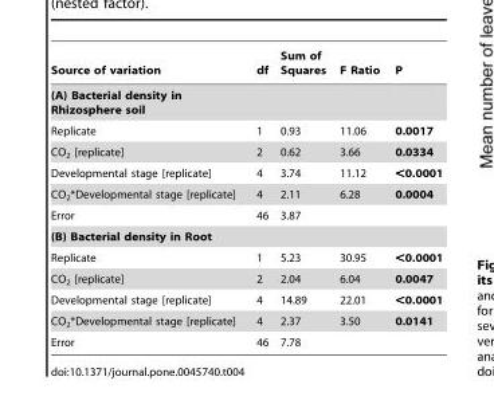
<table><thead><tr><td>Source of variation</td><td>df</td><td>Sum of Squares</td><td>F Ratio</td><td>P</td></tr></thead><tbody><tr><td colspan="5">(A) Bacterial density in Rhizosphere soil</td></tr><tr><td>Replicate</td><td>1</td><td>0.93</td><td>11.06</td><td>0.0017</td></tr><tr><td>CO<sub>2</sub> [replicate]</td><td>2</td><td>0.62</td><td>3.66</td><td>0.0334</td></tr><tr><td>Developmental stage [replicate]</td><td>4</td><td>3.74</td><td>11.12</td><td>&lt;0.0001</td></tr><tr><td>CO<sub>2</sub>*Developmental stage [replicate]</td><td>4</td><td>2.11</td><td>6.28</td><td>0.0004</td></tr><tr><td>Error</td><td>46</td><td>3.87</td><td></td><td></td></tr><tr><td colspan="5">(B) Bacterial density in Root</td></tr><tr><td>Replicate</td><td>1</td><td>5.23</td><td>30.95</td><td>&lt;0.0001</td></tr><tr><td>CO<sub>2</sub> [replicate]</td><td>2</td><td>2.04</td><td>6.04</td><td>0.0047</td></tr><tr><td>Developmental stage [replicate]</td><td>4</td><td>14.89</td><td>22.01</td><td>&lt;0.0001</td></tr><tr><td>CO<sub>2</sub>*Developmental stage [replicate]</td><td>4</td><td>2.37</td><td>3.50</td><td>0.0141</td></tr><tr><td>Error</td><td>46</td><td>7.78</td><td></td><td></td></tr></tbody></table>